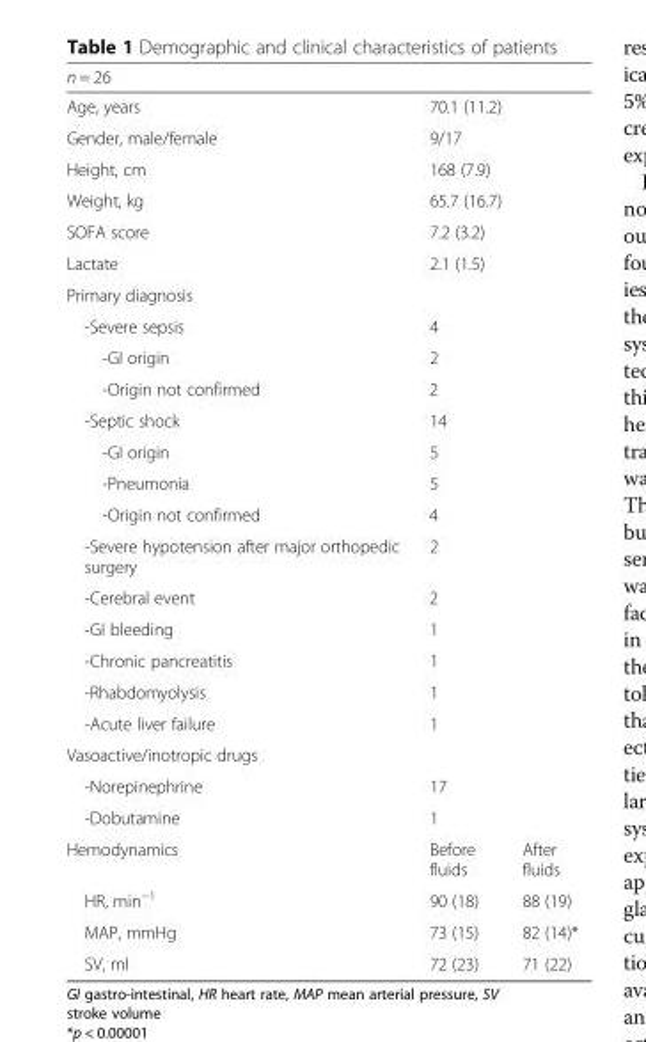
<table><thead><tr><td colspan="3">n = 26</td></tr><tr><td>Age, years</td><td>70.1 (11.2)</td><td></td></tr></thead><tbody><tr><td>Gender, male/female</td><td>9/17</td><td></td></tr><tr><td>Height, cm</td><td>168 (7.9)</td><td></td></tr><tr><td>Weight, kg</td><td>65.7 (16.7)</td><td></td></tr><tr><td>SOFA score</td><td>7.2 (3.2)</td><td></td></tr><tr><td>Lactate</td><td>2.1 (1.5)</td><td></td></tr><tr><td colspan="3">Primary diagnosis</td></tr><tr><td>-Severe sepsis</td><td>4</td><td></td></tr><tr><td>-GI origin</td><td>2</td><td></td></tr><tr><td>-Origin not confirmed</td><td>2</td><td></td></tr><tr><td>-Septic shock</td><td>14</td><td></td></tr><tr><td>-GI origin</td><td>5</td><td></td></tr><tr><td>-Pneumonia</td><td>5</td><td></td></tr><tr><td>-Origin not confirmed</td><td>4</td><td></td></tr><tr><td>-Severe hypotension after major orthopedic surgery</td><td>2</td><td></td></tr><tr><td>-Cerebral event</td><td>2</td><td></td></tr><tr><td>-GI bleeding</td><td>1</td><td></td></tr><tr><td>-Chronic pancreatitis</td><td>1</td><td></td></tr><tr><td>-Rhabdomyolysis</td><td>1</td><td></td></tr><tr><td>-Acute liver failure</td><td>1</td><td></td></tr><tr><td colspan="3">Vasoactive/inotropic drugs</td></tr><tr><td>-Norepinephrine</td><td>17</td><td></td></tr><tr><td>-Dobutamine</td><td>1</td><td></td></tr><tr><td>Hemodynamics</td><td>Before fluids</td><td>After fluids</td></tr><tr><td>HR, min<sup>−1</sup></td><td>90 (18)</td><td>88 (19)</td></tr><tr><td>MAP, mmHg</td><td>73 (15)</td><td>82 (14)*</td></tr><tr><td>SV, ml</td><td>72 (23)</td><td>71 (22)</td></tr></tbody></table>